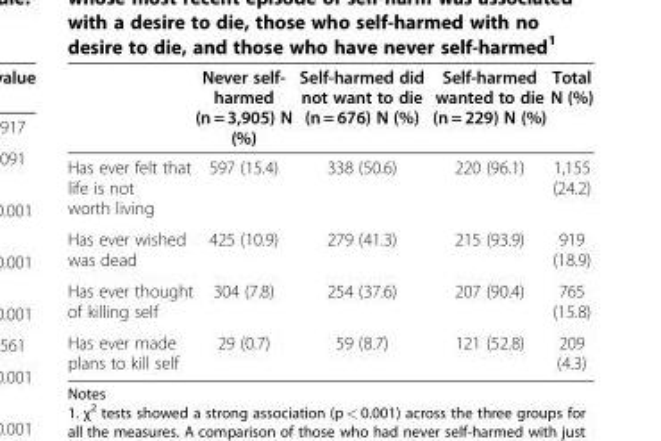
<table><thead><tr><td></td><td>Never self- harmed (n = 3,905) N (%)</td><td>Self-harmed did not want to die (n = 676) N (%)</td><td>Self-harmed wanted to die (n = 229) N (%)</td><td>Total N (%)</td></tr></thead><tbody><tr><td>Has ever felt that life is not worth living</td><td>597 (15.4)</td><td>338 (50.6)</td><td>220 (96.1)</td><td>1,155 (24.2)</td></tr><tr><td>Has ever wished was dead</td><td>425 (10.9)</td><td>279 (41.3)</td><td>215 (93.9)</td><td>919 (18.9)</td></tr><tr><td>Has ever thought of killing self</td><td>304 (7.8)</td><td>254 (37.6)</td><td>207 (90.4)</td><td>765 (15.8)</td></tr><tr><td>Has ever made plans to kill self</td><td>29 (0.7)</td><td>59 (8.7)</td><td>121 (52.8)</td><td>209 (4.3)</td></tr></tbody></table>